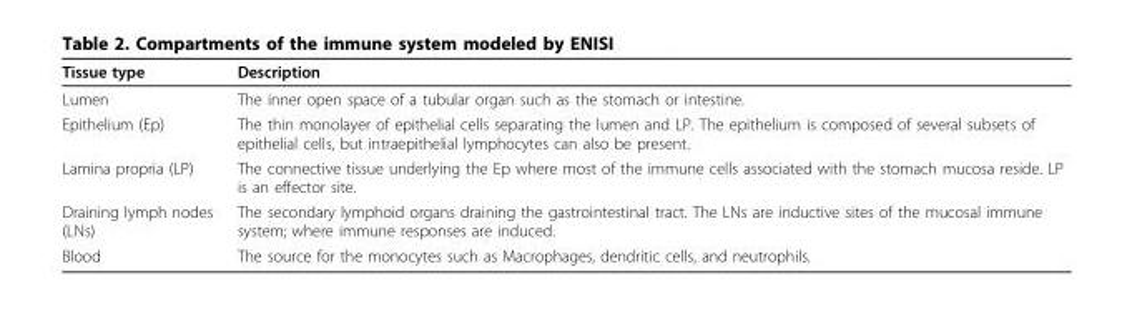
<table><thead><tr><td>Tissue type</td><td>Description</td></tr></thead><tbody><tr><td>Lumen</td><td>The inner open space of a tubular organ such as the stomach or intestine.</td></tr><tr><td>Epithelium (Ep)</td><td>The thin monolayer of epithelial cells separating the lumen and LP. The epithelium is composed of several subsets of epithelial cells, but intraepithelial lymphocytes can also be present.</td></tr><tr><td>Lamina propria (LP)</td><td>The connective tissue underlying the Ep where most of the immune cells associated with the stomach mucosa reside. LP is an effector site.</td></tr><tr><td>Draining lymph nodes (LNs)</td><td>The secondary lymphoid organs draining the gastrointestinal tract. The LNs are inductive sites of the mucosal immune system; where immune responses are induced.</td></tr><tr><td>Blood</td><td>The source for the monocytes such as Macrophages, dendritic cells, and neutrophils.</td></tr></tbody></table>